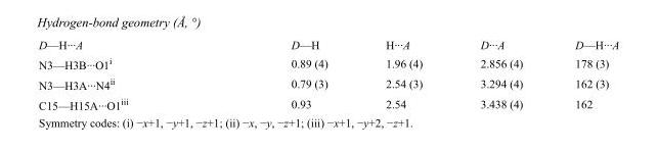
<table><tbody><tr><td>D—H···A</td><td>D—H</td><td>H···A</td><td>D···A</td><td>D—H···A</td></tr><tr><td>N3—H3B···O1<sup>i</sup></td><td>0.89 (4)</td><td>1.96 (4)</td><td>2.856 (4)</td><td>178 (3)</td></tr><tr><td>N3—H3A···N4<sup>ii</sup></td><td>0.79 (3)</td><td>2.54 (3)</td><td>3.294 (4)</td><td>162 (3)</td></tr><tr><td>C15—H15A···O1<sup>iii</sup></td><td>0.93</td><td>2.54</td><td>3.438 (4)</td><td>162</td></tr></tbody></table>